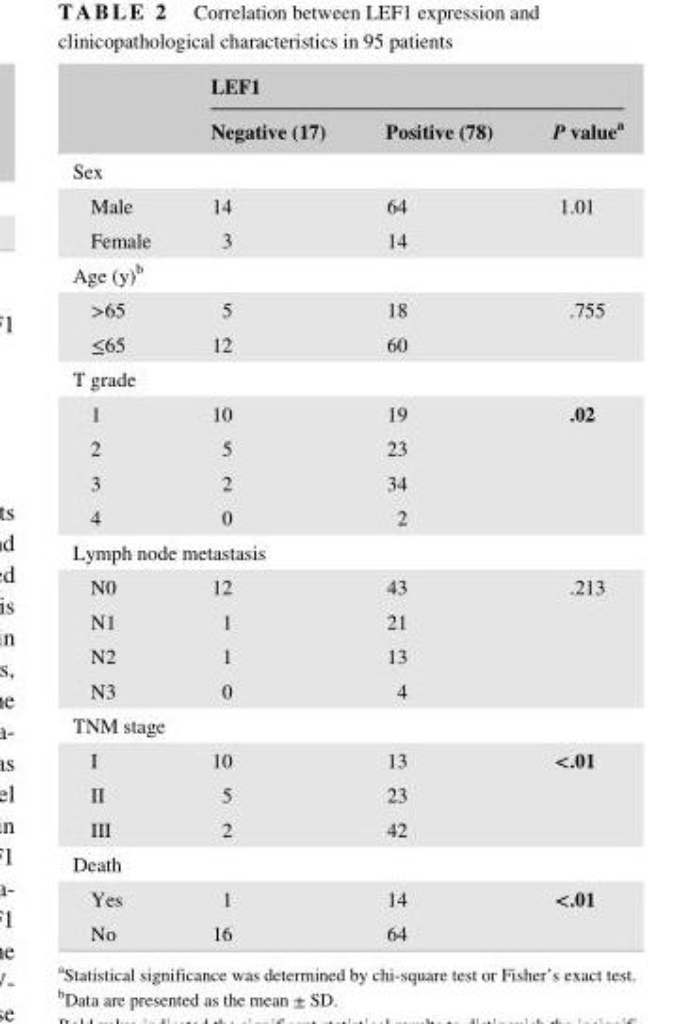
<table><thead><tr><td rowspan="2"></td><td colspan="3">LEF1</td></tr><tr><td>Negative (17)</td><td>Positive (78)</td><td>P value<sup>a</sup></td></tr></thead><tbody><tr><td colspan="4">Sex</td></tr><tr><td>Male</td><td>14</td><td>64</td><td rowspan="2">1.01</td></tr><tr><td>Female</td><td>3</td><td>14</td></tr><tr><td colspan="4">Age (y)<sup>b</sup></td></tr><tr><td>&gt;65</td><td>5</td><td>18</td><td rowspan="2">.755</td></tr><tr><td>≤65</td><td>12</td><td>60</td></tr><tr><td colspan="4">T grade</td></tr><tr><td>1</td><td>10</td><td>19</td><td rowspan="4">.02</td></tr><tr><td>2</td><td>5</td><td>23</td></tr><tr><td>3</td><td>2</td><td>34</td></tr><tr><td>4</td><td>0</td><td>2</td></tr><tr><td colspan="4">Lymph node metastasis</td></tr><tr><td>N0</td><td>12</td><td>43</td><td rowspan="4">.213</td></tr><tr><td>N1</td><td>1</td><td>21</td></tr><tr><td>N2</td><td>1</td><td>13</td></tr><tr><td>N3</td><td>0</td><td>4</td></tr><tr><td colspan="4">TNM stage</td></tr><tr><td>I</td><td>10</td><td>13</td><td rowspan="3">&lt;.01</td></tr><tr><td>II</td><td>5</td><td>23</td></tr><tr><td>III</td><td>2</td><td>42</td></tr><tr><td colspan="4">Death</td></tr><tr><td>Yes</td><td>1</td><td>14</td><td rowspan="2">&lt;.01</td></tr><tr><td>No</td><td>16</td><td>64</td></tr></tbody></table>